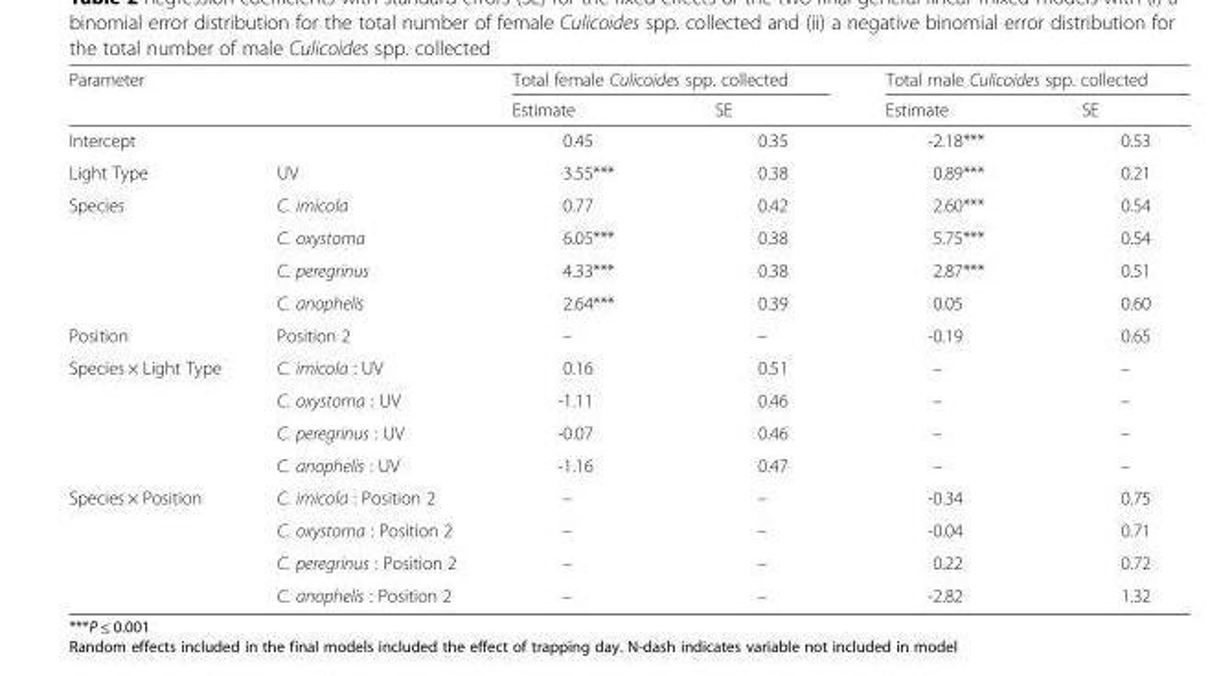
<table><thead><tr><td rowspan="2" colspan="2">Parameter</td><td colspan="2">Total female Culicoides spp. collected</td><td colspan="2">Total male Culicoides spp. collected</td></tr><tr><td rowspan="2">Estimate 0.45</td><td rowspan="2">SE 0.35</td><td rowspan="2">Estimate -2.18***</td><td rowspan="2">SE 0.53</td></tr><tr><td>Intercept</td><td></td></tr></thead><tbody><tr><td>Light Type</td><td>UV</td><td>3.55***</td><td>0.38</td><td>0.89***</td><td>0.21</td></tr><tr><td rowspan="4">Species</td><td>C. imicola</td><td>0.77</td><td>0.42</td><td>2.60***</td><td>0.54</td></tr><tr><td>C. oxystoma</td><td>6.05***</td><td>0.38</td><td>5.75***</td><td>0.54</td></tr><tr><td>C. peregrinus</td><td>4.33***</td><td>0.38</td><td>2.87***</td><td>0.51</td></tr><tr><td>C. anophelis</td><td>2.64***</td><td>0.39</td><td>0.05</td><td>0.60</td></tr><tr><td>Position</td><td>Position 2</td><td>–</td><td>–</td><td>-0.19</td><td>0.65</td></tr><tr><td rowspan="4">Species × Light Type</td><td>C. imicola : UV</td><td>0.16</td><td>0.51</td><td>–</td><td>–</td></tr><tr><td>C. oxystoma : UV</td><td>-1.11</td><td>0.46</td><td>–</td><td>–</td></tr><tr><td>C. peregrinus : UV</td><td>-0.07</td><td>0.46</td><td>–</td><td>–</td></tr><tr><td>C. anophelis : UV</td><td>-1.16</td><td>0.47</td><td>–</td><td>–</td></tr><tr><td rowspan="4">Species × Position</td><td>C. imicola : Position 2</td><td>–</td><td>–</td><td>-0.34</td><td>0.75</td></tr><tr><td>C. oxystoma : Position 2</td><td>–</td><td>–</td><td>-0.04</td><td>0.71</td></tr><tr><td>C. peregrinus : Position 2</td><td>–</td><td>–</td><td>0.22</td><td>0.72</td></tr><tr><td>C. anophelis : Position 2</td><td>–</td><td>–</td><td>-2.82</td><td>1.32</td></tr></tbody></table>